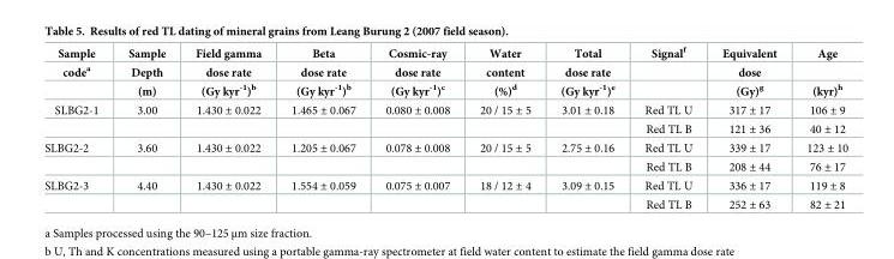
<table><thead><tr><td rowspan="3">Sample code<sup>a</sup></td><td rowspan="3">Sample Depth (m)</td><td rowspan="3">Field gamma dose rate (Gy kyr<sup>-1</sup>)<sup>b</sup></td><td rowspan="3">Beta dose rate (Gy kyr<sup>-1</sup>)<sup>b</sup></td><td rowspan="3">Cosmic-ray dose rate (Gy kyr<sup>-1</sup>)<sup>c</sup></td><td rowspan="3">Water content (%)<sup>d</sup></td><td rowspan="3">Total dose rate (Gy kyr<sup>-1</sup>)<sup>e</sup></td><td rowspan="3">Signal<sup>f</sup></td><td rowspan="3">Equivalent dose (Gy)<sup>g</sup></td><td rowspan="3">Age (kyr)<sup>h</sup></td></tr><tr></tr><tr></tr></thead><tbody><tr><td rowspan="2">SLBG2-1</td><td>3.00</td><td>1.430 ± 0.022</td><td>1.465 ± 0.067</td><td>0.080 ± 0.008</td><td>20 / 15 ± 5</td><td>3.01 ± 0.18</td><td>Red TL U</td><td>317 ± 17</td><td>106 ± 9</td></tr><tr><td></td><td></td><td></td><td></td><td></td><td></td><td>Red TL B</td><td>121 ± 36</td><td>40 ± 12</td></tr><tr><td rowspan="2">SLBG2-2</td><td>3.60</td><td>1.430 ± 0.022</td><td>1.205 ± 0.067</td><td>0.078 ± 0.008</td><td>20 / 15 ± 5</td><td>2.75 ± 0.16</td><td>Red TL U</td><td>339 ± 17</td><td>123 ± 10</td></tr><tr><td></td><td></td><td></td><td></td><td></td><td></td><td>Red TL B</td><td>208 ± 44</td><td>76 ± 17</td></tr><tr><td rowspan="2">SLBG2-3</td><td>4.40</td><td>1.430 ± 0.022</td><td>1.554 ± 0.059</td><td>0.075 ± 0.007</td><td>18 / 12 ± 4</td><td>3.09 ± 0.15</td><td>Red TL U</td><td>336 ± 17</td><td>119 ± 8</td></tr><tr><td></td><td></td><td></td><td></td><td></td><td></td><td>Red TL B</td><td>252 ± 63</td><td>82 ± 21</td></tr></tbody></table>